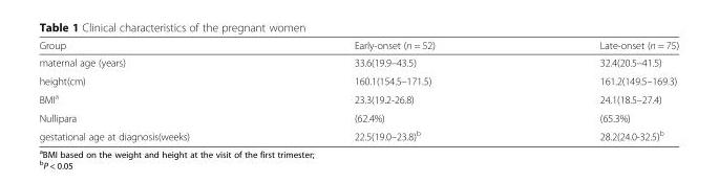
<table><thead><tr><td>Group</td><td>Early-onset (n = 52)</td><td>Late-onset (n = 75)</td></tr></thead><tbody><tr><td>maternal age (years)</td><td>33.6(19.9–43.5)</td><td>32.4(20.5–41.5)</td></tr><tr><td>height(cm)</td><td>160.1(154.5–171.5)</td><td>161.2(149.5–169.3)</td></tr><tr><td>BMI<sup>a</sup></td><td>23.3(19.2-26.8)</td><td>24.1(18.5–27.4)</td></tr><tr><td>Nullipara</td><td>(62.4%)</td><td>(65.3%)</td></tr><tr><td>gestational age at diagnosis(weeks)</td><td>22.5(19.0–23.8)<sup>b</sup></td><td>28.2(24.0-32.5)<sup>b</sup></td></tr></tbody></table>